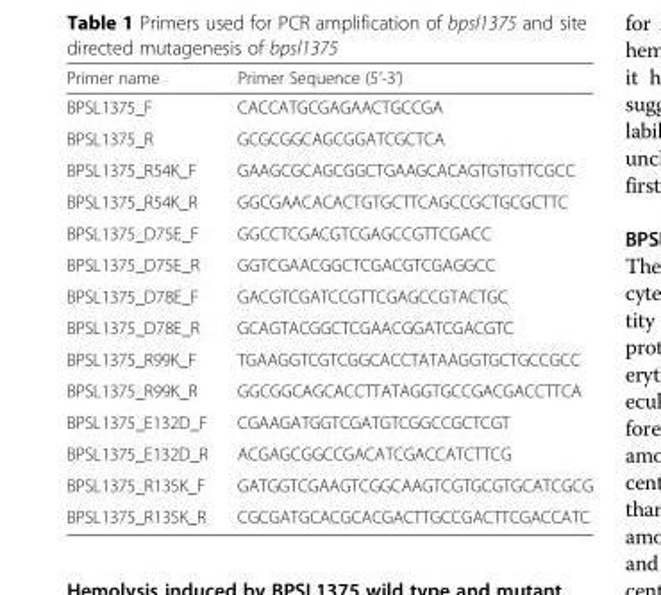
<table><thead><tr><td>Primer name</td><td>Primer Sequence (5’-3’)</td></tr></thead><tbody><tr><td>BPSL1375_F</td><td>CACCATGCGAGAACTGCCGA</td></tr><tr><td>BPSL1375_R</td><td>GCGCGGCAGCGGATCGCTCA</td></tr><tr><td>BPSL1375_R54K_F</td><td>GAAGCGCAGCGGCTGAAGCACAGTGTGTTCGCC</td></tr><tr><td>BPSL1375_R54K_R</td><td>GGCGAACACACTGTGCTTCAGCCGCTGCGCTTC</td></tr><tr><td>BPSL1375_D75E_F</td><td>GGCCTCGACGTCGAGCCGTTCGACC</td></tr><tr><td>BPSL1375_D75E_R</td><td>GGTCGAACGGCTCGACGTCGAGGCC</td></tr><tr><td>BPSL1375_D78E_F</td><td>GACGTCGATCCGTTCGAGCCGTACTGC</td></tr><tr><td>BPSL1375_D78E_R</td><td>GCAGTACGGCTCGAACGGATCGACGTC</td></tr><tr><td>BPSL1375_R99K_F</td><td>TGAAGGTCGTCGGCACCTATAAGGTGCTGCCGCC</td></tr><tr><td>BPSL1375_R99K_R</td><td>GGCGGCAGCACCTTATAGGTGCCGACGACCTTCA</td></tr><tr><td>BPSL1375_E132D_F</td><td>CGAAGATGGTCGATGTCGGCCGCTCGT</td></tr><tr><td>BPSL1375_E132D_R</td><td>ACGAGCGGCCGACATCGACCATCTTCG</td></tr><tr><td>BPSL1375_R135K_F</td><td>GATGGTCGAAGTCGGCAAGTCGTGCGTGCATCGCG</td></tr><tr><td>BPSL1375_R135K_R</td><td>CGCGATGCACGCACGACTTGCCGACTTCGACCATC</td></tr></tbody></table>